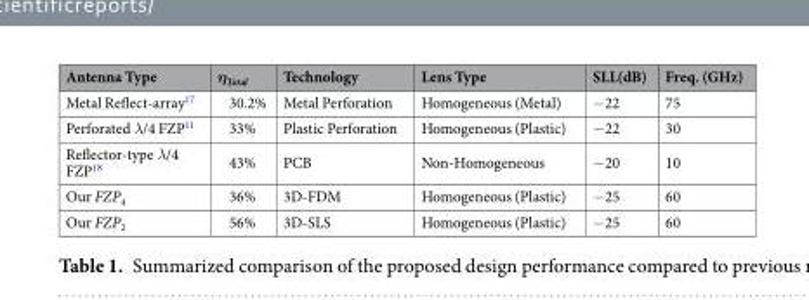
<table><thead><tr><td>Antenna Type</td><td>η<sub>Total</sub></td><td>Technology</td><td>Lens Type</td><td>SLL(dB)</td><td>Freq. (GHz)</td></tr></thead><tbody><tr><td>Metal Reflect-array<sup>17</sup></td><td>30.2%</td><td>Metal Perforation</td><td>Homogeneous (Metal)</td><td>−22</td><td>75</td></tr><tr><td>Perforated λ/4 FZP<sup>11</sup></td><td>33%</td><td>Plastic Perforation</td><td>Homogeneous (Plastic)</td><td>−22</td><td>30</td></tr><tr><td>Reflector-type λ/4 FZP<sup>18</sup></td><td>43%</td><td>PCB</td><td>Non-Homogeneous</td><td>−20</td><td>10</td></tr><tr><td>Our FZP<sub>4</sub></td><td>36%</td><td>3D-FDM</td><td>Homogeneous (Plastic)</td><td>−25</td><td>60</td></tr><tr><td>Our FZP<sub>2</sub></td><td>56%</td><td>3D-SLS</td><td>Homogeneous (Plastic)</td><td>−25</td><td>60</td></tr></tbody></table>